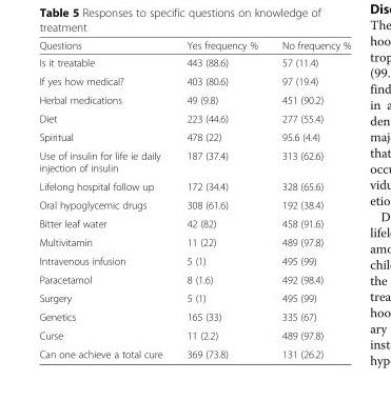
<table><thead><tr><td>Questions</td><td>Yes frequency %</td><td>No frequency %</td></tr></thead><tbody><tr><td>Is it treatable</td><td>443 (88.6)</td><td>57 (11.4)</td></tr><tr><td>If yes how medical?</td><td>403 (80.6)</td><td>97 (19.4)</td></tr><tr><td>Herbal medications</td><td>49 (9.8)</td><td>451 (90.2)</td></tr><tr><td>Diet</td><td>223 (44.6)</td><td>277 (55.4)</td></tr><tr><td>Spiritual</td><td>478 (22)</td><td>95.6 (4.4)</td></tr><tr><td>Use of insulin for life ie daily injection of insulin</td><td>187 (37.4)</td><td>313 (62.6)</td></tr><tr><td>Lifelong hospital follow up</td><td>172 (34.4)</td><td>328 (65.6)</td></tr><tr><td>Oral hypoglycemic drugs</td><td>308 (61.6)</td><td>192 (38.4)</td></tr><tr><td>Bitter leaf water</td><td>42 (82)</td><td>458 (91.6)</td></tr><tr><td>Multivitamin</td><td>11 (22)</td><td>489 (97.8)</td></tr><tr><td>Intravenous infusion</td><td>5 (1)</td><td>495 (99)</td></tr><tr><td>Paracetamol</td><td>8 (1.6)</td><td>492 (98.4)</td></tr><tr><td>Surgery</td><td>5 (1)</td><td>495 (99)</td></tr><tr><td>Genetics</td><td>165 (33)</td><td>335 (67)</td></tr><tr><td>Curse</td><td>11 (2.2)</td><td>489 (97.8)</td></tr><tr><td>Can one achieve a total cure</td><td>369 (73.8)</td><td>131 (26.2)</td></tr></tbody></table>